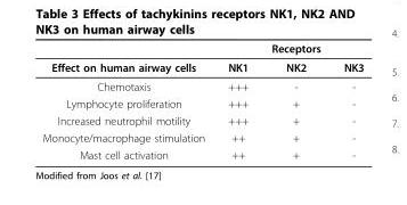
<table><thead><tr><td></td><td></td><td>Receptors</td><td></td></tr></thead><tbody><tr><td>Effect on human airway cells</td><td>NK1</td><td>NK2</td><td>NK3</td></tr><tr><td>Chemotaxis</td><td>+++</td><td>-</td><td>-</td></tr><tr><td>Lymphocyte proliferation</td><td>+++</td><td>+</td><td>-</td></tr><tr><td>Increased neutrophil motility</td><td>+++</td><td>+</td><td>-</td></tr><tr><td>Monocyte/macrophage stimulation</td><td>++</td><td>+</td><td>-</td></tr><tr><td>Mast cell activation</td><td>++</td><td>+</td><td>-</td></tr></tbody></table>